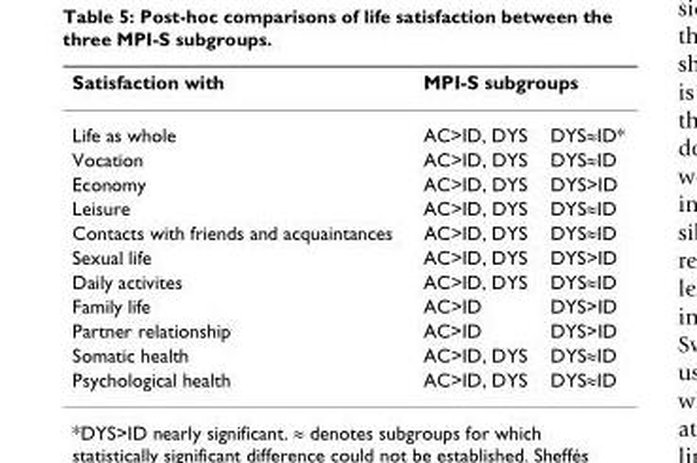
<table><thead><tr><td rowspan="2">Satisfaction with Life as whole</td><td colspan="2">MPI-S subgroups</td></tr><tr><td>AC&gt;ID, DYS</td><td>DYS≈ID*</td></tr></thead><tbody><tr><td>Vocation</td><td>AC&gt;ID, DYS</td><td>DYS≈ID</td></tr><tr><td>Economy</td><td>AC&gt;ID, DYS</td><td>DYS&gt;ID</td></tr><tr><td>Leisure</td><td>AC&gt;ID, DYS</td><td>DYS≈ID</td></tr><tr><td>Contacts with friends and acquaintances</td><td>AC&gt;ID, DYS</td><td>DYS≈ID</td></tr><tr><td>Sexual life</td><td>AC&gt;ID, DYS</td><td>DYS&gt;ID</td></tr><tr><td>Daily activites</td><td>AC&gt;ID, DYS</td><td>DYS≈ID</td></tr><tr><td>Family life</td><td>AC&gt;ID</td><td>DYS&gt;ID</td></tr><tr><td>Partner relationship</td><td>AC&gt;ID</td><td>DYS&gt;ID</td></tr><tr><td>Somatic health</td><td>AC&gt;ID, DYS</td><td>DYS≈ID</td></tr><tr><td>Psychological health</td><td>AC&gt;ID, DYS</td><td>DYS≈ID</td></tr></tbody></table>